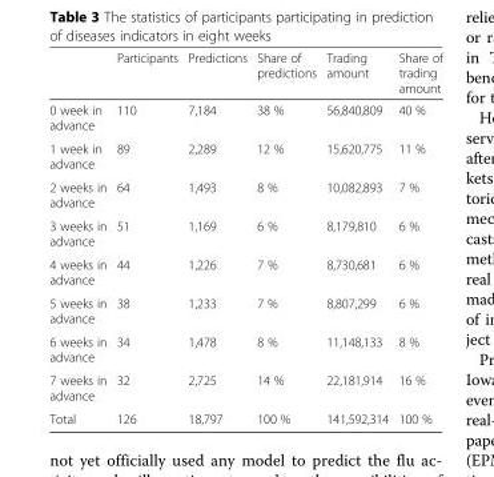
<table><thead><tr><td></td><td>Participants</td><td>Predictions</td><td>Share of predictions</td><td>Trading amount</td><td>Share of trading amount</td></tr></thead><tbody><tr><td>0 week in advance</td><td>110</td><td>7,184</td><td>38 %</td><td>56,840,809</td><td>40 %</td></tr><tr><td>1 week in advance</td><td>89</td><td>2,289</td><td>12 %</td><td>15,620,775</td><td>11 %</td></tr><tr><td>2 weeks in advance</td><td>64</td><td>1,493</td><td>8 %</td><td>10,082,893</td><td>7 %</td></tr><tr><td>3 weeks in advance</td><td>51</td><td>1,169</td><td>6 %</td><td>8,179,810</td><td>6 %</td></tr><tr><td>4 weeks in advance</td><td>44</td><td>1,226</td><td>7 %</td><td>8,730,681</td><td>6 %</td></tr><tr><td>5 weeks in advance</td><td>38</td><td>1,233</td><td>7 %</td><td>8,807,299</td><td>6 %</td></tr><tr><td>6 weeks in advance</td><td>34</td><td>1,478</td><td>8 %</td><td>11,148,133</td><td>8 %</td></tr><tr><td>7 weeks in advance</td><td>32</td><td>2,725</td><td>14 %</td><td>22,181,914</td><td>16 %</td></tr><tr><td>Total</td><td>126</td><td>18,797</td><td>100 %</td><td>141,592,314</td><td>100 %</td></tr></tbody></table>